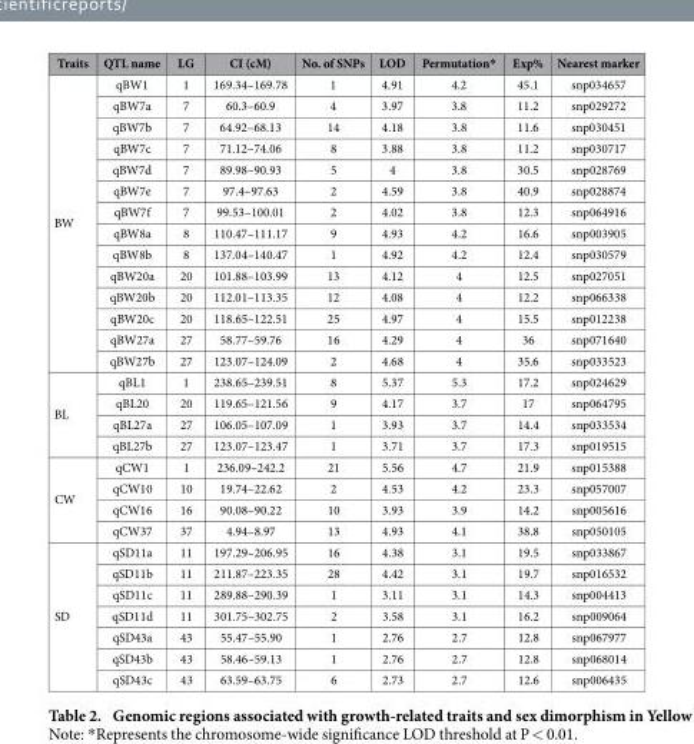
<table><thead><tr><td>Traits</td><td>QTL name</td><td>LG</td><td>CI (cM)</td><td>No. of SNPs</td><td>LOD</td><td>Permutation*</td><td>Exp%</td><td>Nearest marker</td></tr></thead><tbody><tr><td rowspan="14">BW</td><td>qBW1</td><td>1</td><td>169.34–169.78</td><td>1</td><td>4.91</td><td>4.2</td><td>45.1</td><td>snp034657</td></tr><tr><td>qBW7a</td><td>7</td><td>60.3–60.9</td><td>4</td><td>3.97</td><td>3.8</td><td>11.2</td><td>snp029272</td></tr><tr><td>qBW7b</td><td>7</td><td>64.92–68.13</td><td>14</td><td>4.18</td><td>3.8</td><td>11.6</td><td>snp030451</td></tr><tr><td>qBW7c</td><td>7</td><td>71.12–74.06</td><td>8</td><td>3.88</td><td>3.8</td><td>11.2</td><td>snp030717</td></tr><tr><td>qBW7d</td><td>7</td><td>89.98–90.93</td><td>5</td><td>4</td><td>3.8</td><td>30.5</td><td>snp028769</td></tr><tr><td>qBW7e</td><td>7</td><td>97.4–97.63</td><td>2</td><td>4.59</td><td>3.8</td><td>40.9</td><td>snp028874</td></tr><tr><td>qBW7f</td><td>7</td><td>99.53–100.01</td><td>2</td><td>4.02</td><td>3.8</td><td>12.3</td><td>snp064916</td></tr><tr><td>qBW8a</td><td>8</td><td>110.47–111.17</td><td>9</td><td>4.93</td><td>4.2</td><td>16.6</td><td>snp003905</td></tr><tr><td>qBW8b</td><td>8</td><td>137.04–140.47</td><td>1</td><td>4.92</td><td>4.2</td><td>12.4</td><td>snp030579</td></tr><tr><td>qBW20a</td><td>20</td><td>101.88–103.99</td><td>13</td><td>4.12</td><td>4</td><td>12.5</td><td>snp027051</td></tr><tr><td>qBW20b</td><td>20</td><td>112.01–113.35</td><td>12</td><td>4.08</td><td>4</td><td>12.2</td><td>snp066338</td></tr><tr><td>qBW20c</td><td>20</td><td>118.65–122.51</td><td>25</td><td>4.97</td><td>4</td><td>15.5</td><td>snp012238</td></tr><tr><td>qBW27a</td><td>27</td><td>58.77–59.76</td><td>16</td><td>4.29</td><td>4</td><td>36</td><td>snp071640</td></tr><tr><td>qBW27b</td><td>27</td><td>123.07–124.09</td><td>2</td><td>4.68</td><td>4</td><td>35.6</td><td>snp033523</td></tr><tr><td rowspan="4">BL</td><td>qBL1</td><td>1</td><td>238.65–239.51</td><td>8</td><td>5.37</td><td>5.3</td><td>17.2</td><td>snp024629</td></tr><tr><td>qBL20</td><td>20</td><td>119.65–121.56</td><td>9</td><td>4.17</td><td>3.7</td><td>17</td><td>snp064795</td></tr><tr><td>qBL27a</td><td>27</td><td>106.05–107.09</td><td>1</td><td>3.93</td><td>3.7</td><td>14.4</td><td>snp033534</td></tr><tr><td>qBL27b</td><td>27</td><td>123.07–123.47</td><td>1</td><td>3.71</td><td>3.7</td><td>17.3</td><td>snp019515</td></tr><tr><td rowspan="4">CW</td><td>qCW1</td><td>1</td><td>236.09–242.2</td><td>21</td><td>5.56</td><td>4.7</td><td>21.9</td><td>snp015388</td></tr><tr><td>qCW10</td><td>10</td><td>19.74–22.62</td><td>2</td><td>4.53</td><td>4.2</td><td>23.3</td><td>snp057007</td></tr><tr><td>qCW16</td><td>16</td><td>90.08–90.22</td><td>10</td><td>3.93</td><td>3.9</td><td>14.2</td><td>snp005616</td></tr><tr><td>qCW37</td><td>37</td><td>4.94–8.97</td><td>13</td><td>4.93</td><td>4.1</td><td>38.8</td><td>snp050105</td></tr><tr><td rowspan="7">SD</td><td>qSD11a</td><td>11</td><td>197.29–206.95</td><td>16</td><td>4.38</td><td>3.1</td><td>19.5</td><td>snp033867</td></tr><tr><td>qSD11b</td><td>11</td><td>211.87–223.35</td><td>28</td><td>4.42</td><td>3.1</td><td>19.7</td><td>snp016532</td></tr><tr><td>qSD11c</td><td>11</td><td>289.88–290.39</td><td>1</td><td>3.11</td><td>3.1</td><td>14.3</td><td>snp004413</td></tr><tr><td>qSD11d</td><td>11</td><td>301.75–302.75</td><td>2</td><td>3.58</td><td>3.1</td><td>16.2</td><td>snp009064</td></tr><tr><td>qSD43a</td><td>43</td><td>55.47–55.90</td><td>1</td><td>2.76</td><td>2.7</td><td>12.8</td><td>snp067977</td></tr><tr><td>qSD43b</td><td>43</td><td>58.46–59.13</td><td>1</td><td>2.76</td><td>2.7</td><td>12.8</td><td>snp068014</td></tr><tr><td>qSD43c</td><td>43</td><td>63.59–63.75</td><td>6</td><td>2.73</td><td>2.7</td><td>12.6</td><td>snp006435</td></tr></tbody></table>